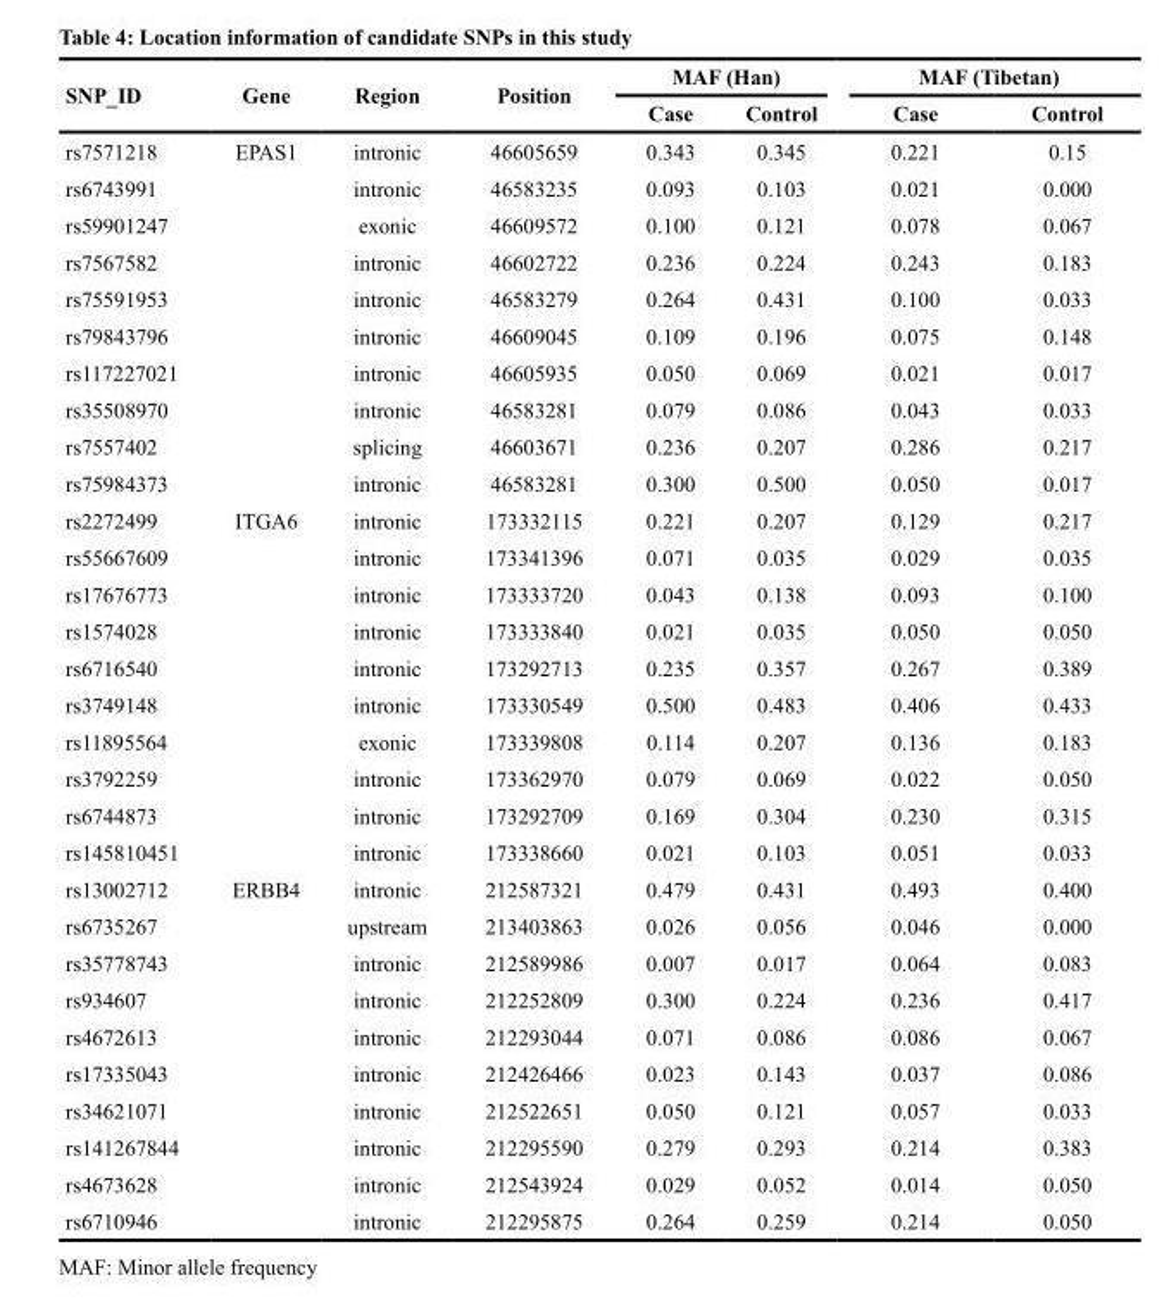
<table><thead><tr><td rowspan="2">SNP_ID</td><td rowspan="2">Gene</td><td rowspan="2">Region</td><td rowspan="2">Position</td><td colspan="2">MAF (Han)</td><td colspan="2">MAF (Tibetan)</td></tr><tr><td>Case</td><td>Control</td><td>Case</td><td>Control</td></tr></thead><tbody><tr><td>rs7571218</td><td>EPAS1</td><td>intronic</td><td>46605659</td><td>0.343</td><td>0.345</td><td>0.221</td><td>0.15</td></tr><tr><td>rs6743991</td><td></td><td>intronic</td><td>46583235</td><td>0.093</td><td>0.103</td><td>0.021</td><td>0.000</td></tr><tr><td>rs59901247</td><td></td><td>exonic</td><td>46609572</td><td>0.100</td><td>0.121</td><td>0.078</td><td>0.067</td></tr><tr><td>rs7567582</td><td></td><td>intronic</td><td>46602722</td><td>0.236</td><td>0.224</td><td>0.243</td><td>0.183</td></tr><tr><td>rs75591953</td><td></td><td>intronic</td><td>46583279</td><td>0.264</td><td>0.431</td><td>0.100</td><td>0.033</td></tr><tr><td>rs79843796</td><td></td><td>intronic</td><td>46609045</td><td>0.109</td><td>0.196</td><td>0.075</td><td>0.148</td></tr><tr><td>rs117227021</td><td></td><td>intronic</td><td>46605935</td><td>0.050</td><td>0.069</td><td>0.021</td><td>0.017</td></tr><tr><td>rs35508970</td><td></td><td>intronic</td><td>46583281</td><td>0.079</td><td>0.086</td><td>0.043</td><td>0.033</td></tr><tr><td>rs7557402</td><td></td><td>splicing</td><td>46603671</td><td>0.236</td><td>0.207</td><td>0.286</td><td>0.217</td></tr><tr><td>rs75984373</td><td></td><td>intronic</td><td>46583281</td><td>0.300</td><td>0.500</td><td>0.050</td><td>0.017</td></tr><tr><td>rs2272499</td><td>ITGA6</td><td>intronic</td><td>173332115</td><td>0.221</td><td>0.207</td><td>0.129</td><td>0.217</td></tr><tr><td>rs55667609</td><td></td><td>intronic</td><td>173341396</td><td>0.071</td><td>0.035</td><td>0.029</td><td>0.035</td></tr><tr><td>rs17676773</td><td></td><td>intronic</td><td>173333720</td><td>0.043</td><td>0.138</td><td>0.093</td><td>0.100</td></tr><tr><td>rs1574028</td><td></td><td>intronic</td><td>173333840</td><td>0.021</td><td>0.035</td><td>0.050</td><td>0.050</td></tr><tr><td>rs6716540</td><td></td><td>intronic</td><td>173292713</td><td>0.235</td><td>0.357</td><td>0.267</td><td>0.389</td></tr><tr><td>rs3749148</td><td></td><td>intronic</td><td>173330549</td><td>0.500</td><td>0.483</td><td>0.406</td><td>0.433</td></tr><tr><td>rs11895564</td><td></td><td>exonic</td><td>173339808</td><td>0.114</td><td>0.207</td><td>0.136</td><td>0.183</td></tr><tr><td>rs3792259</td><td></td><td>intronic</td><td>173362970</td><td>0.079</td><td>0.069</td><td>0.022</td><td>0.050</td></tr><tr><td>rs6744873</td><td></td><td>intronic</td><td>173292709</td><td>0.169</td><td>0.304</td><td>0.230</td><td>0.315</td></tr><tr><td>rs145810451</td><td></td><td>intronic</td><td>173338660</td><td>0.021</td><td>0.103</td><td>0.051</td><td>0.033</td></tr><tr><td>rs13002712</td><td>ERBB4</td><td>intronic</td><td>212587321</td><td>0.479</td><td>0.431</td><td>0.493</td><td>0.400</td></tr><tr><td>rs6735267</td><td></td><td>upstream</td><td>213403863</td><td>0.026</td><td>0.056</td><td>0.046</td><td>0.000</td></tr><tr><td>rs35778743</td><td></td><td>intronic</td><td>212589986</td><td>0.007</td><td>0.017</td><td>0.064</td><td>0.083</td></tr><tr><td>rs934607</td><td></td><td>intronic</td><td>212252809</td><td>0.300</td><td>0.224</td><td>0.236</td><td>0.417</td></tr><tr><td>rs4672613</td><td></td><td>intronic</td><td>212293044</td><td>0.071</td><td>0.086</td><td>0.086</td><td>0.067</td></tr><tr><td>rs17335043</td><td></td><td>intronic</td><td>212426466</td><td>0.023</td><td>0.143</td><td>0.037</td><td>0.086</td></tr><tr><td>rs34621071</td><td></td><td>intronic</td><td>212522651</td><td>0.050</td><td>0.121</td><td>0.057</td><td>0.033</td></tr><tr><td>rs141267844</td><td></td><td>intronic</td><td>212295590</td><td>0.279</td><td>0.293</td><td>0.214</td><td>0.383</td></tr><tr><td>rs4673628</td><td></td><td>intronic</td><td>212543924</td><td>0.029</td><td>0.052</td><td>0.014</td><td>0.050</td></tr><tr><td>rs6710946</td><td></td><td>intronic</td><td>212295875</td><td>0.264</td><td>0.259</td><td>0.214</td><td>0.050</td></tr></tbody></table>